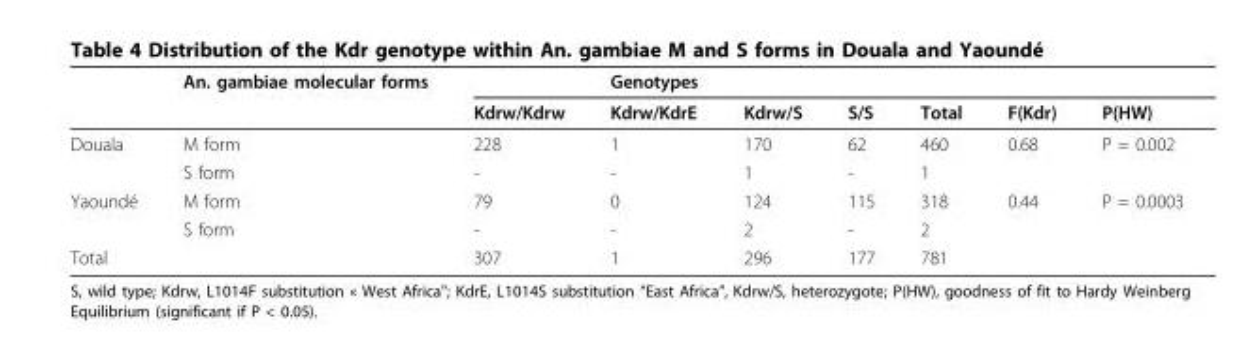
<table><thead><tr><td rowspan="2"></td><td rowspan="2">An. gambiae molecular forms</td><td rowspan="2">Kdrw/Kdrw</td><td rowspan="2">Genotypes Kdrw/KdrE</td><td rowspan="2">Kdrw/S</td><td rowspan="2">S/S</td><td rowspan="2">Total</td><td rowspan="2">F(Kdr)</td><td rowspan="2">P(HW)</td></tr><tr></tr></thead><tbody><tr><td rowspan="2">Douala</td><td>M form</td><td>228</td><td>1</td><td>170</td><td>62</td><td>460</td><td>0.68</td><td>P = 0.002</td></tr><tr><td>S form</td><td>-</td><td>-</td><td>1</td><td>-</td><td>1</td><td></td><td></td></tr><tr><td rowspan="2">Yaoundé</td><td>M form</td><td>79</td><td>0</td><td>124</td><td>115</td><td>318</td><td>0.44</td><td>P = 0.0003</td></tr><tr><td>S form</td><td>-</td><td>-</td><td>2</td><td>-</td><td>2</td><td></td><td></td></tr><tr><td>Total</td><td></td><td>307</td><td>1</td><td>296</td><td>177</td><td>781</td><td></td><td></td></tr></tbody></table>